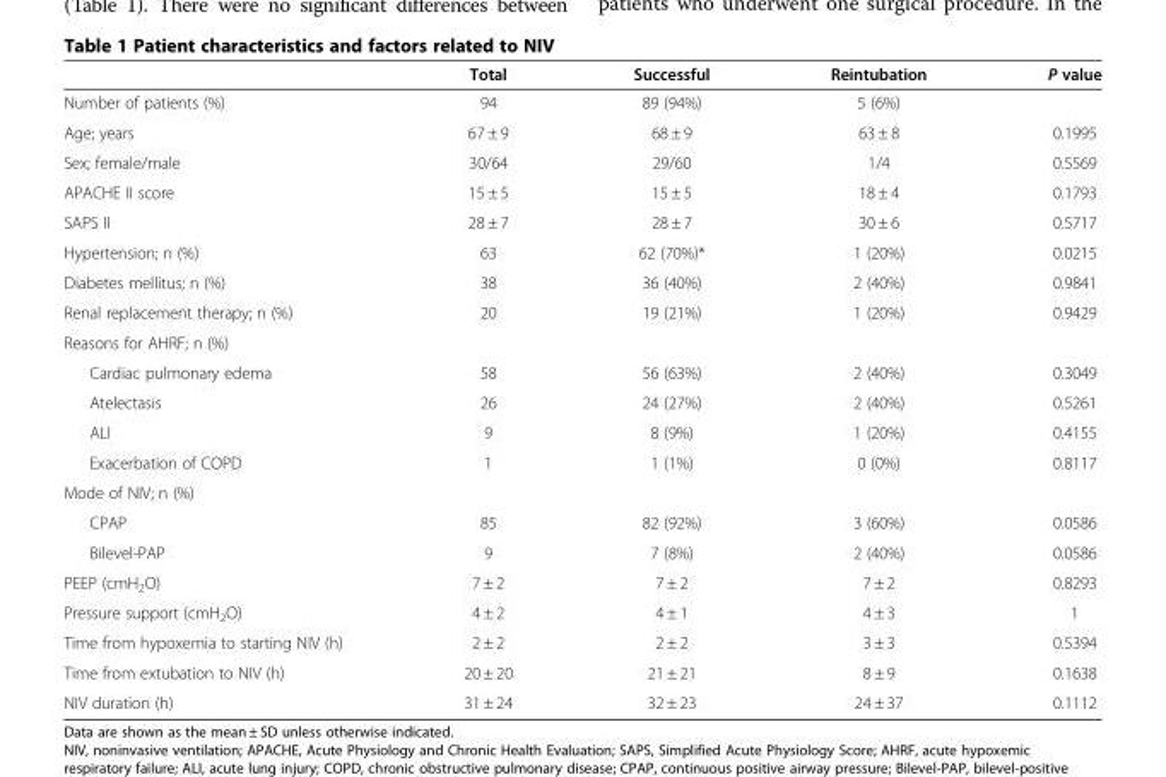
<table><thead><tr><td></td><td>Total</td><td>Successful</td><td>Reintubation</td><td>P value</td></tr></thead><tbody><tr><td>Number of patients (%)</td><td>94</td><td>89 (94%)</td><td>5 (6%)</td><td></td></tr><tr><td>Age; years</td><td>67 ± 9</td><td>68 ± 9</td><td>63 ± 8</td><td>0.1995</td></tr><tr><td>Sex; female/male</td><td>30/64</td><td>29/60</td><td>1/4</td><td>0.5569</td></tr><tr><td>APACHE II score</td><td>15 ± 5</td><td>15 ± 5</td><td>18 ± 4</td><td>0.1793</td></tr><tr><td>SAPS II</td><td>28 ± 7</td><td>28 ± 7</td><td>30 ± 6</td><td>0.5717</td></tr><tr><td>Hypertension; n (%)</td><td>63</td><td>62 (70%)*</td><td>1 (20%)</td><td>0.0215</td></tr><tr><td>Diabetes mellitus; n (%)</td><td>38</td><td>36 (40%)</td><td>2 (40%)</td><td>0.9841</td></tr><tr><td>Renal replacement therapy; n (%)</td><td>20</td><td>19 (21%)</td><td>1 (20%)</td><td>0.9429</td></tr><tr><td colspan="5">Reasons for AHRF; n (%)</td></tr><tr><td>Cardiac pulmonary edema</td><td>58</td><td>56 (63%)</td><td>2 (40%)</td><td>0.3049</td></tr><tr><td>Atelectasis</td><td>26</td><td>24 (27%)</td><td>2 (40%)</td><td>0.5261</td></tr><tr><td>ALI</td><td>9</td><td>8 (9%)</td><td>1 (20%)</td><td>0.4155</td></tr><tr><td>Exacerbation of COPD</td><td>1</td><td>1 (1%)</td><td>0 (0%)</td><td>0.8117</td></tr><tr><td colspan="5">Mode of NIV; n (%)</td></tr><tr><td>CPAP</td><td>85</td><td>82 (92%)</td><td>3 (60%)</td><td>0.0586</td></tr><tr><td>Bilevel-PAP</td><td>9</td><td>7 (8%)</td><td>2 (40%)</td><td>0.0586</td></tr><tr><td>PEEP (cmH<sub>2</sub>O)</td><td>7 ± 2</td><td>7 ± 2</td><td>7 ± 2</td><td>0.8293</td></tr><tr><td>Pressure support (cmH<sub>2</sub>O)</td><td>4 ± 2</td><td>4 ± 1</td><td>4 ± 3</td><td>1</td></tr><tr><td>Time from hypoxemia to starting NIV (h)</td><td>2 ± 2</td><td>2 ± 2</td><td>3 ± 3</td><td>0.5394</td></tr><tr><td>Time from extubation to NIV (h)</td><td>20 ± 20</td><td>21 ± 21</td><td>8 ± 9</td><td>0.1638</td></tr><tr><td>NIV duration (h)</td><td>31 ± 24</td><td>32 ± 23</td><td>24 ± 37</td><td>0.1112</td></tr></tbody></table>